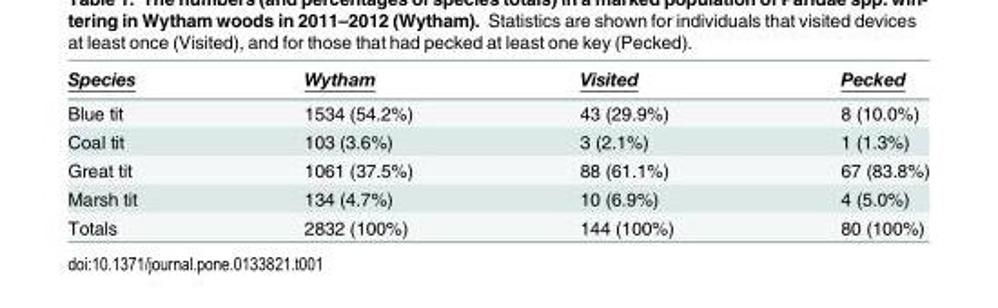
<table><thead><tr><td>Species</td><td>Wytham</td><td>Visited</td><td>Pecked</td></tr></thead><tbody><tr><td>Blue tit</td><td>1534 (54.2%)</td><td>43 (29.9%)</td><td>8 (10.0%)</td></tr><tr><td>Coal tit</td><td>103 (3.6%)</td><td>3 (2.1%)</td><td>1 (1.3%)</td></tr><tr><td>Great tit</td><td>1061 (37.5%)</td><td>88 (61.1%)</td><td>67 (83.8%)</td></tr><tr><td>Marsh tit</td><td>134 (4.7%)</td><td>10 (6.9%)</td><td>4 (5.0%)</td></tr><tr><td>Totals</td><td>2832 (100%)</td><td>144 (100%)</td><td>80 (100%)</td></tr></tbody></table>